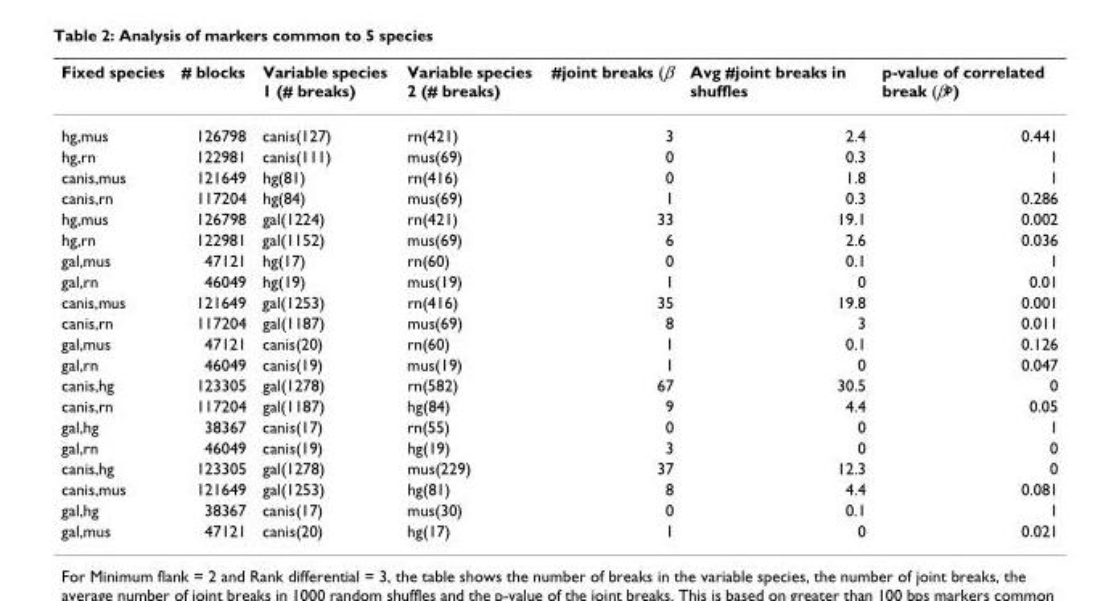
<table><thead><tr><td>Fixed species</td><td># blocks</td><td>Variable species 1 (# breaks)</td><td>Variable species 2 (# breaks)</td><td>#joint breaks (β</td><td>Avg #joint breaks in shuffles</td><td>p-value of correlated break (β<sup>p</sup>)</td></tr></thead><tbody><tr><td>hg,mus</td><td>126798</td><td>canis(127)</td><td>rn(421)</td><td>3</td><td>2.4</td><td>0.441</td></tr><tr><td>hg,rn</td><td>122981</td><td>canis(111)</td><td>mus(69)</td><td>0</td><td>0.3</td><td>1</td></tr><tr><td>canis,mus</td><td>121649</td><td>hg(81)</td><td>rn(416)</td><td>0</td><td>1.8</td><td>1</td></tr><tr><td>canis,rn</td><td>117204</td><td>hg(84)</td><td>mus(69)</td><td>1</td><td>0.3</td><td>0.286</td></tr><tr><td>hg,mus</td><td>126798</td><td>gal(1224)</td><td>rn(421)</td><td>33</td><td>19.1</td><td>0.002</td></tr><tr><td>hg,rn</td><td>122981</td><td>gal(1152)</td><td>mus(69)</td><td>6</td><td>2.6</td><td>0.036</td></tr><tr><td>gal,mus</td><td>47121</td><td>hg(17)</td><td>rn(60)</td><td>0</td><td>0.1</td><td>1</td></tr><tr><td>gal,rn</td><td>46049</td><td>hg(19)</td><td>mus(19)</td><td>1</td><td>0</td><td>0.01</td></tr><tr><td>canis,mus</td><td>121649</td><td>gal(1253)</td><td>rn(416)</td><td>35</td><td>19.8</td><td>0.001</td></tr><tr><td>canis,rn</td><td>117204</td><td>gal(1187)</td><td>mus(69)</td><td>8</td><td>3</td><td>0.011</td></tr><tr><td>gal,mus</td><td>47121</td><td>canis(20)</td><td>rn(60)</td><td>1</td><td>0.1</td><td>0.126</td></tr><tr><td>gal,rn</td><td>46049</td><td>canis(19)</td><td>mus(19)</td><td>1</td><td>0</td><td>0.047</td></tr><tr><td>canis,hg</td><td>123305</td><td>gal(1278)</td><td>rn(582)</td><td>67</td><td>30.5</td><td>0</td></tr><tr><td>canis,rn</td><td>117204</td><td>gal(1187)</td><td>hg(84)</td><td>9</td><td>4.4</td><td>0.05</td></tr><tr><td>gal,hg</td><td>38367</td><td>canis(17)</td><td>rn(55)</td><td>0</td><td>0</td><td>1</td></tr><tr><td>gal,rn</td><td>46049</td><td>canis(19)</td><td>hg(19)</td><td>3</td><td>0</td><td>0</td></tr><tr><td>canis,hg</td><td>123305</td><td>gal(1278)</td><td>mus(229)</td><td>37</td><td>12.3</td><td>0</td></tr><tr><td>canis,mus</td><td>121649</td><td>gal(1253)</td><td>hg(81)</td><td>8</td><td>4.4</td><td>0.081</td></tr><tr><td>gal,hg</td><td>38367</td><td>canis(17)</td><td>mus(30)</td><td>0</td><td>0.1</td><td>1</td></tr><tr><td>gal,mus</td><td>47121</td><td>canis(20)</td><td>hg(17)</td><td>1</td><td>0</td><td>0.021</td></tr></tbody></table>